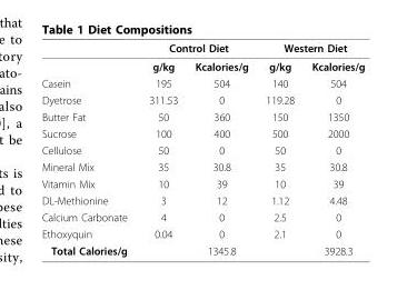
<table><thead><tr><td rowspan="2"></td><td colspan="2">Control Diet</td><td colspan="2">Western Diet</td></tr><tr><td>g/kg</td><td>Kcalories/g</td><td>g/kg</td><td>Kcalories/g</td></tr></thead><tbody><tr><td>Casein</td><td>195</td><td>504</td><td>140</td><td>504</td></tr><tr><td>Dyetrose</td><td>311.53</td><td>0</td><td>119.28</td><td>0</td></tr><tr><td>Butter Fat</td><td>50</td><td>360</td><td>150</td><td>1350</td></tr><tr><td>Sucrose</td><td>100</td><td>400</td><td>500</td><td>2000</td></tr><tr><td>Cellulose</td><td>50</td><td>0</td><td>50</td><td>0</td></tr><tr><td>Mineral Mix</td><td>35</td><td>30.8</td><td>35</td><td>30.8</td></tr><tr><td>Vitamin Mix</td><td>10</td><td>39</td><td>10</td><td>39</td></tr><tr><td>DL-Methionine</td><td>3</td><td>12</td><td>1.12</td><td>4.48</td></tr><tr><td>Calcium Carbonate</td><td>4</td><td>0</td><td>2.5</td><td>0</td></tr><tr><td>Ethoxyquin</td><td>0.04</td><td>0</td><td>2.1</td><td>0</td></tr><tr><td>Total Calories/g</td><td></td><td>1345.8</td><td></td><td>3928.3</td></tr></tbody></table>